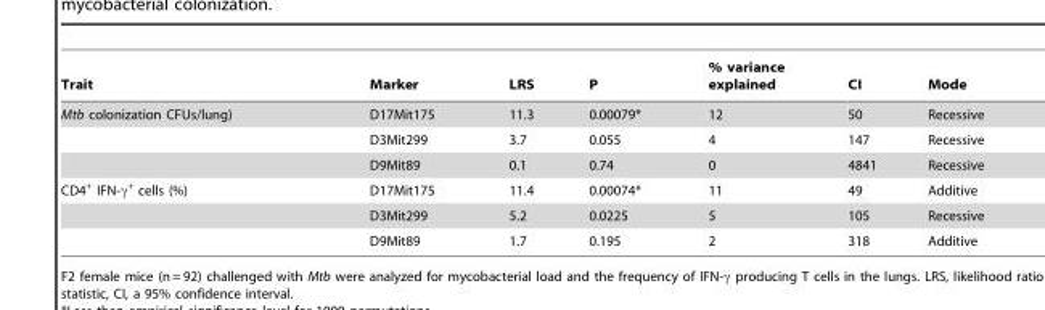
<table><thead><tr><td>Trait</td><td>Marker</td><td>LRS</td><td>P</td><td>% variance explained</td><td>CI</td><td>Mode</td></tr></thead><tbody><tr><td rowspan="3">Mtb colonization CFUs/lung)</td><td>D17Mit175</td><td>11.3</td><td>0.00079*</td><td>12</td><td>50</td><td>Recessive</td></tr><tr><td>D3Mit299</td><td>3.7</td><td>0.055</td><td>4</td><td>147</td><td>Recessive</td></tr><tr><td>D9Mit89</td><td>0.1</td><td>0.74</td><td>0</td><td>4841</td><td>Recessive</td></tr><tr><td rowspan="3">CD4<sup>+</sup> IFN-γ<sup>+</sup> cells (%)</td><td>D17Mit175</td><td>11.4</td><td>0.00074*</td><td>11</td><td>49</td><td>Additive</td></tr><tr><td>D3Mit299</td><td>5.2</td><td>0.0225</td><td>5</td><td>105</td><td>Recessive</td></tr><tr><td>D9Mit89</td><td>1.7</td><td>0.195</td><td>2</td><td>318</td><td>Additive</td></tr></tbody></table>